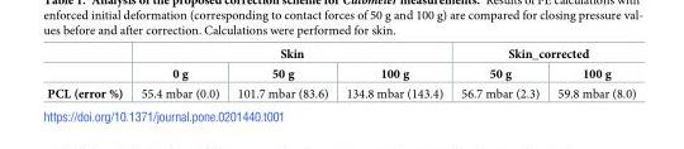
<table><thead><tr><td rowspan="2"></td><td colspan="3">Skin</td><td colspan="2">Skin_corrected</td></tr><tr><td>0 g</td><td>50 g</td><td>100 g</td><td>50 g</td><td>100 g</td></tr></thead><tbody><tr><td>PCL (error %)</td><td>55.4 mbar (0.0)</td><td>101.7 mbar (83.6)</td><td>134.8 mbar (143.4)</td><td>56.7 mbar (2.3)</td><td>59.8 mbar (8.0)</td></tr></tbody></table>